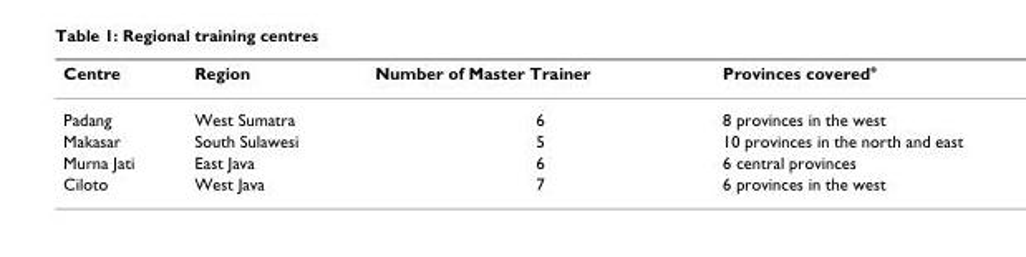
<table><thead><tr><td>Centre</td><td>Region</td><td>Number of Master Trainer</td><td>Provinces covered°</td></tr></thead><tbody><tr><td>Padang</td><td>West Sumatra</td><td>6</td><td>8 provinces in the west</td></tr><tr><td>Makasar</td><td>South Sulawesi</td><td>5</td><td>10 provinces in the north and east</td></tr><tr><td>Murna Jati</td><td>East Java</td><td>6</td><td>6 central provinces</td></tr><tr><td>Ciloto</td><td>West Java</td><td>7</td><td>6 provinces in the west</td></tr></tbody></table>